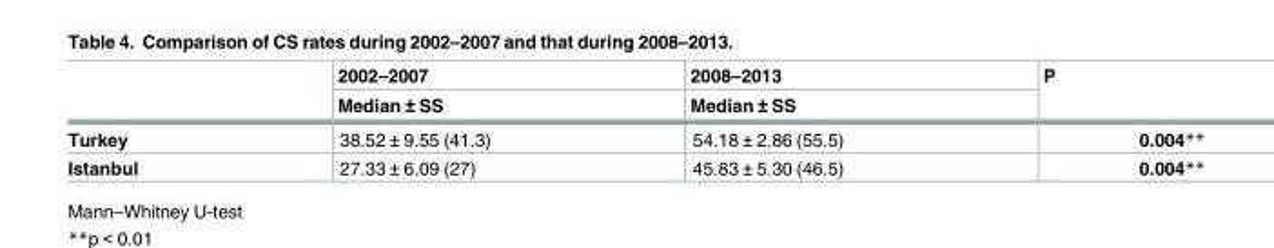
<table><thead><tr><td rowspan="2"></td><td rowspan="2">2002–2007 Median ± SS</td><td rowspan="2">2008–2013 Median ± SS</td><td rowspan="2">P</td></tr><tr></tr></thead><tbody><tr><td>Turkey</td><td>38.52 ± 9.55 (41.3)</td><td>54.18 ± 2.86 (55.5)</td><td>0.004**</td></tr><tr><td>Istanbul</td><td>27.33 ± 6.09 (27)</td><td>45.83 ± 5.30 (46.5)</td><td>0.004**</td></tr></tbody></table>